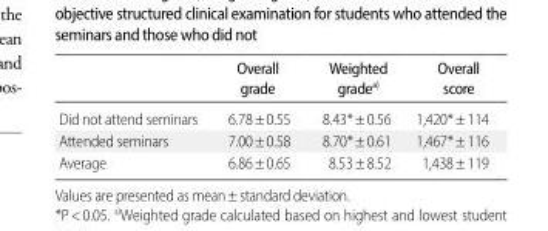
<table><thead><tr><td></td><td>Overall grade</td><td>Weighted grade<sup>a)</sup></td><td>Overall score</td></tr></thead><tbody><tr><td>Did not attend seminars</td><td>6.78±0.55</td><td>8.43*±0.56</td><td>1,420*±114</td></tr><tr><td>Attended seminars</td><td>7.00±0.58</td><td>8.70*±0.61</td><td>1,467*±116</td></tr><tr><td>Average</td><td>6.86±0.65</td><td>8.53±8.52</td><td>1,438±119</td></tr></tbody></table>